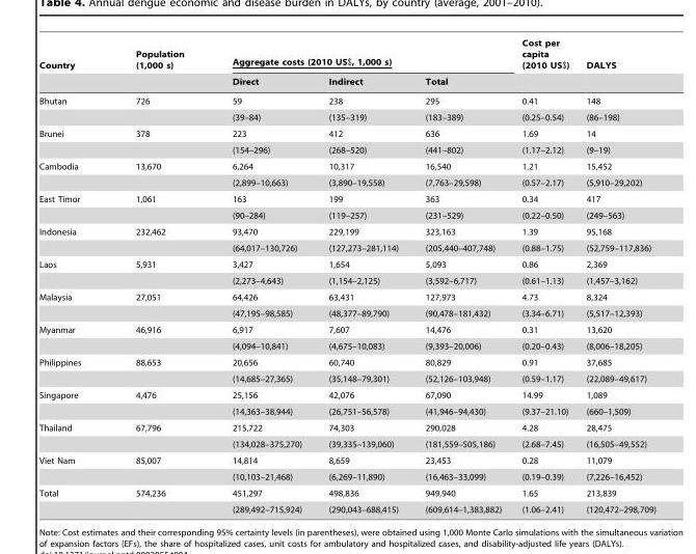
<table><thead><tr><td rowspan="2">Country</td><td rowspan="2">Population (1,000 s)</td><td colspan="3">Aggregate costs (2010 US$, 1,000 s)</td><td rowspan="2">Cost per capita (2010 US$)</td><td rowspan="2">DALYS</td></tr><tr><td>Direct</td><td>Indirect</td><td>Total</td></tr></thead><tbody><tr><td rowspan="2">Bhutan</td><td>726</td><td>59</td><td>238</td><td>295</td><td>0.41</td><td>148</td></tr><tr><td></td><td>(39–84)</td><td>(135–319)</td><td>(183–389)</td><td>(0.25–0.54)</td><td>(86–198)</td></tr><tr><td rowspan="2">Brunei</td><td>378</td><td>223</td><td>412</td><td>636</td><td>1.69</td><td>14</td></tr><tr><td></td><td>(154–296)</td><td>(268–520)</td><td>(441–802)</td><td>(1.17–2.12)</td><td>(9–19)</td></tr><tr><td rowspan="2">Cambodia</td><td>13,670</td><td>6,264</td><td>10,317</td><td>16,540</td><td>1.21</td><td>15,452</td></tr><tr><td></td><td>(2,899–10,663)</td><td>(3,890–19,558)</td><td>(7,763–29,598)</td><td>(0.57–2.17)</td><td>(5,910–29,202)</td></tr><tr><td rowspan="2">East Timor</td><td>1,061</td><td>163</td><td>199</td><td>363</td><td>0.34</td><td>417</td></tr><tr><td></td><td>(90–284)</td><td>(119–257)</td><td>(231–529)</td><td>(0.22–0.50)</td><td>(249–563)</td></tr><tr><td rowspan="2">Indonesia</td><td>232,462</td><td>93,470</td><td>229,199</td><td>323,163</td><td>1.39</td><td>95,168</td></tr><tr><td></td><td>(64,017–130,726)</td><td>(127,273–281,114)</td><td>(205,440–407,748)</td><td>(0.88–1.75)</td><td>(52,759–117,836)</td></tr><tr><td rowspan="2">Laos</td><td>5,931</td><td>3,427</td><td>1,654</td><td>5,093</td><td>0.86</td><td>2,369</td></tr><tr><td></td><td>(2,273–4,643)</td><td>(1,154–2,125)</td><td>(3,592–6,717)</td><td>(0.61–1.13)</td><td>(1,457–3,162)</td></tr><tr><td rowspan="2">Malaysia</td><td>27,051</td><td>64,426</td><td>63,431</td><td>127,973</td><td>4.73</td><td>8,324</td></tr><tr><td></td><td>(47,195–98,585)</td><td>(48,377–89,790)</td><td>(90,478–181,432)</td><td>(3.34–6.71)</td><td>(5,517–12,393)</td></tr><tr><td rowspan="2">Myanmar</td><td>46,916</td><td>6,917</td><td>7,607</td><td>14,476</td><td>0.31</td><td>13,620</td></tr><tr><td></td><td>(4,094–10,841)</td><td>(4,675–10,083)</td><td>(9,393–20,006)</td><td>(0.20–0.43)</td><td>(8,006–18,205)</td></tr><tr><td rowspan="2">Philippines</td><td>88,653</td><td>20,656</td><td>60,740</td><td>80,829</td><td>0.91</td><td>37,685</td></tr><tr><td></td><td>(14,685–27,365)</td><td>(35,148–79,301)</td><td>(52,126–103,948)</td><td>(0.59–1.17)</td><td>(22,089–49,617)</td></tr><tr><td rowspan="2">Singapore</td><td>4,476</td><td>25,156</td><td>42,076</td><td>67,090</td><td>14.99</td><td>1,089</td></tr><tr><td></td><td>(14,363–38,944)</td><td>(26,751–56,578)</td><td>(41,946–94,430)</td><td>(9.37–21.10)</td><td>(660–1,509)</td></tr><tr><td rowspan="2">Thailand</td><td>67,796</td><td>215,722</td><td>74,303</td><td>290,028</td><td>4.28</td><td>28,475</td></tr><tr><td></td><td>(134,028–375,270)</td><td>(39,335–139,060)</td><td>(181,559–505,186)</td><td>(2.68–7.45)</td><td>(16,505–49,552)</td></tr><tr><td rowspan="2">Viet Nam</td><td>85,007</td><td>14,814</td><td>8,659</td><td>23,453</td><td>0.28</td><td>11,079</td></tr><tr><td></td><td>(10,103–21,468)</td><td>(6,269–11,890)</td><td>(16,463–33,099)</td><td>(0.19–0.39)</td><td>(7,226–16,452)</td></tr><tr><td rowspan="2">Total</td><td>574,236</td><td>451,297</td><td>498,836</td><td>949,940</td><td>1.65</td><td>213,839</td></tr><tr><td></td><td>(289,492–715,924)</td><td>(290,043–688,415)</td><td>(609,614–1,383,882)</td><td>(1.06–2.41)</td><td>(120,472–298,709)</td></tr></tbody></table>